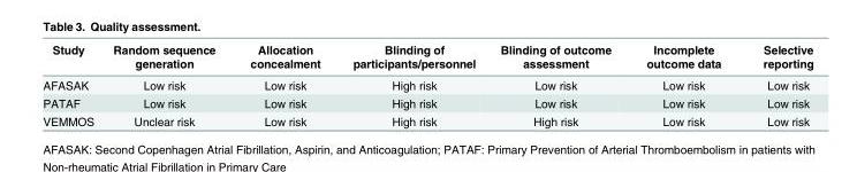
<table><thead><tr><td>Study</td><td>Random sequence generation</td><td>Allocation concealment</td><td>Blinding of participants/personnel</td><td>Blinding of outcome assessment</td><td>Incomplete outcome data</td><td>Selective reporting</td></tr></thead><tbody><tr><td>AFASAK</td><td>Low risk</td><td>Low risk</td><td>High risk</td><td>Low risk</td><td>Low risk</td><td>Low risk</td></tr><tr><td>PATAF</td><td>Low risk</td><td>Low risk</td><td>High risk</td><td>Low risk</td><td>Low risk</td><td>Low risk</td></tr><tr><td>VEMMOS</td><td>Unclear risk</td><td>Low risk</td><td>High risk</td><td>High risk</td><td>Low risk</td><td>Low risk</td></tr></tbody></table>